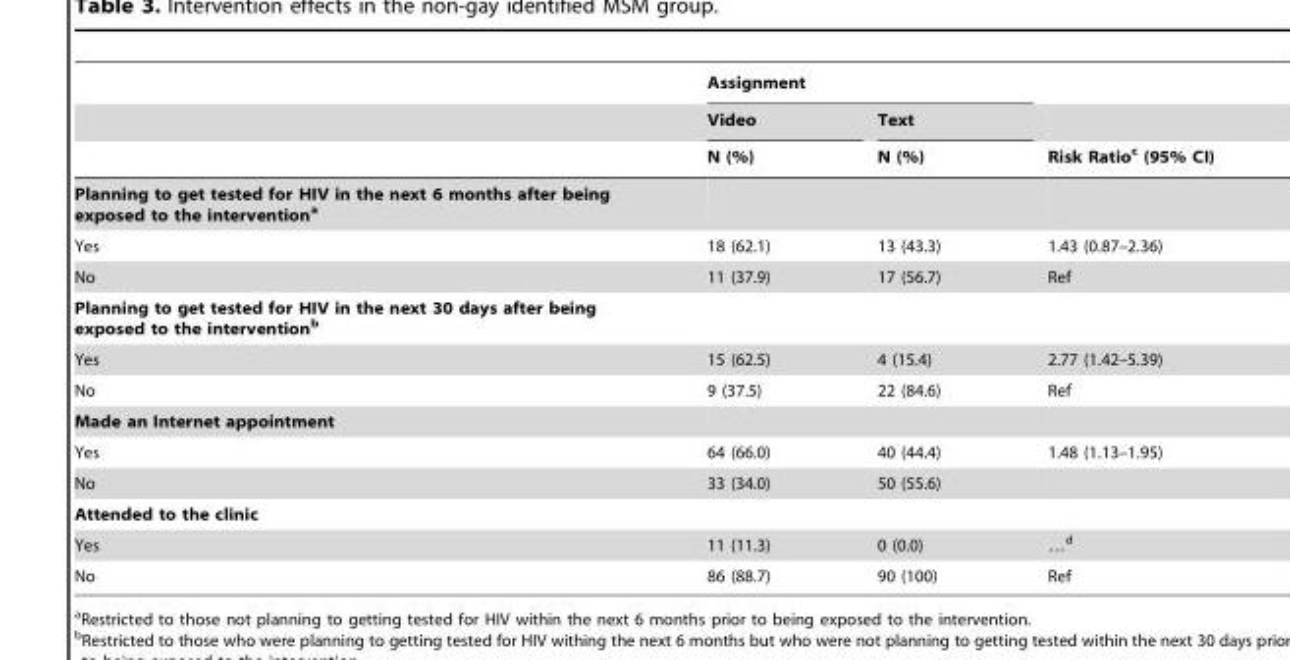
<table><thead><tr><td rowspan="3"></td><td colspan="2">Assignment</td><td rowspan="3">Risk Ratio<sup>c</sup> (95% CI)</td></tr><tr><td rowspan="2">Video N (%)</td><td rowspan="2">Text N (%)</td></tr><tr></tr></thead><tbody><tr><td colspan="4">Planning to get tested for HIV in the next 6 months after being exposed to the interventiona</td></tr><tr><td>Yes</td><td>18 (62.1)</td><td>13 (43.3)</td><td>1.43 (0.87–2.36)</td></tr><tr><td>No</td><td>11 (37.9)</td><td>17 (56.7)</td><td>Ref</td></tr><tr><td colspan="4">Planning to get tested for HIV in the next 30 days after being exposed to the interventionb</td></tr><tr><td>Yes</td><td>15 (62.5)</td><td>4 (15.4)</td><td>2.77 (1.42–5.39)</td></tr><tr><td>No</td><td>9 (37.5)</td><td>22 (84.6)</td><td>Ref</td></tr><tr><td colspan="4">Made an Internet appointment</td></tr><tr><td>Yes</td><td>64 (66.0)</td><td>40 (44.4)</td><td>1.48 (1.13–1.95)</td></tr><tr><td>No</td><td>33 (34.0)</td><td>50 (55.6)</td><td></td></tr><tr><td colspan="4">Attended to the clinic</td></tr><tr><td>Yes</td><td>11 (11.3)</td><td>0 (0.0)</td><td>…<sup>d</sup></td></tr><tr><td>No</td><td>86 (88.7)</td><td>90 (100)</td><td>Ref</td></tr></tbody></table>